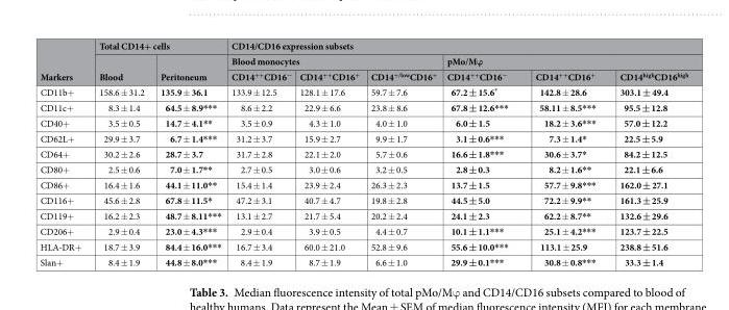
<table><thead><tr><td rowspan="3">Markers</td><td colspan="2">Total CD14+ cells</td><td colspan="6">CD14/CD16 expression subsets</td></tr><tr><td rowspan="2">Blood</td><td rowspan="2">Peritoneum</td><td colspan="3">Blood monocytes</td><td colspan="3">pMo/Mϕ</td></tr><tr><td>CD14<sup>++</sup>CD16<sup>−</sup></td><td>CD14<sup>++</sup>CD16<sup>+</sup></td><td>CD14<sup>+/low</sup>CD16<sup>+</sup></td><td>CD14<sup>++</sup>CD16<sup>−</sup></td><td>CD14<sup>++</sup>CD16<sup>+</sup></td><td>CD14<sup>high</sup>CD16<sup>high</sup></td></tr></thead><tbody><tr><td>CD11b+</td><td>158.6 ± 31.2</td><td>135.9 ± 36.1</td><td>133.9 ± 12.5</td><td>128.1 ± 17.6</td><td>59.7 ± 7.6</td><td>67.2 ± 15.6*</td><td>142.8 ± 28.6</td><td>303.1 ± 49.4</td></tr><tr><td>CD11c+</td><td>8.3 ± 1.4</td><td>64.5 ± 8.9***</td><td>8.6 ± 2.2</td><td>22.9 ± 6.6</td><td>23.8 ± 8.6</td><td>67.8 ± 12.6***</td><td>58.11 ± 8.5***</td><td>95.5 ± 12.8</td></tr><tr><td>CD40+</td><td>3.5 ± 0.5</td><td>14.7 ± 4.1**</td><td>3.5 ± 0.9</td><td>4.3 ± 1.0</td><td>4.0 ± 1.0</td><td>6.0 ± 1.5</td><td>18.2 ± 3.6***</td><td>57.0 ± 12.2</td></tr><tr><td>CD62L+</td><td>29.9 ± 3.7</td><td>6.7 ± 1.4***</td><td>31.2 ± 3.7</td><td>15.9 ± 2.7</td><td>9.9 ± 1.7</td><td>3.1 ± 0.6***</td><td>7.3 ± 1.4*</td><td>22.5 ± 5.9</td></tr><tr><td>CD64+</td><td>30.2 ± 2.6</td><td>28.7 ± 3.7</td><td>31.7 ± 2.8</td><td>22.1 ± 2.0</td><td>5.7 ± 0.6</td><td>16.6 ± 1.8***</td><td>30.6 ± 3.7*</td><td>84.2 ± 12.5</td></tr><tr><td>CD80+</td><td>2.5 ± 0.6</td><td>7.0 ± 1.7**</td><td>2.7 ± 0.5</td><td>3.0 ± 0.6</td><td>3.2 ± 0.5</td><td>2.8 ± 0.3</td><td>8.2 ± 1.6**</td><td>22.1 ± 6.6</td></tr><tr><td>CD86+</td><td>16.4 ± 1.6</td><td>44.1 ± 11.0**</td><td>15.4 ± 1.4</td><td>23.9 ± 2.4</td><td>26.3 ± 2.3</td><td>13.7 ± 1.5</td><td>57.7 ± 9.8***</td><td>162.0 ± 27.1</td></tr><tr><td>CD116+</td><td>45.6 ± 2.8</td><td>67.8 ± 11.5*</td><td>47.2 ± 3.1</td><td>40.7 ± 4.7</td><td>19.8 ± 2.8</td><td>44.5 ± 5.0</td><td>72.2 ± 9.9**</td><td>161.3 ± 25.9</td></tr><tr><td>CD119+</td><td>16.2 ± 2.3</td><td>48.7 ± 8.11***</td><td>13.1 ± 2.7</td><td>21.7 ± 5.4</td><td>20.2 ± 2.4</td><td>24.1 ± 2.3</td><td>62.2 ± 8.7**</td><td>132.6 ± 29.6</td></tr><tr><td>CD206+</td><td>2.9 ± 0.4</td><td>23.0 ± 4.3***</td><td>2.9 ± 0.4</td><td>3.9 ± 0.5</td><td>4.4 ± 0.7</td><td>10.1 ± 1.1***</td><td>25.1 ± 4.2***</td><td>123.7 ± 22.5</td></tr><tr><td>HLA-DR+</td><td>18.7 ± 3.9</td><td>84.4 ± 16.0***</td><td>16.7 ± 3.4</td><td>60.0 ± 21.0</td><td>52.8 ± 9.6</td><td>55.6 ± 10.0***</td><td>113.1 ± 25.9</td><td>238.8 ± 51.6</td></tr><tr><td>Slan+</td><td>8.4 ± 1.9</td><td>44.8 ± 8.0***</td><td>8.4 ± 1.9</td><td>8.7 ± 1.9</td><td>6.6 ± 1.0</td><td>29.9 ± 0.1***</td><td>30.8 ± 0.8***</td><td>33.3 ± 1.4</td></tr></tbody></table>